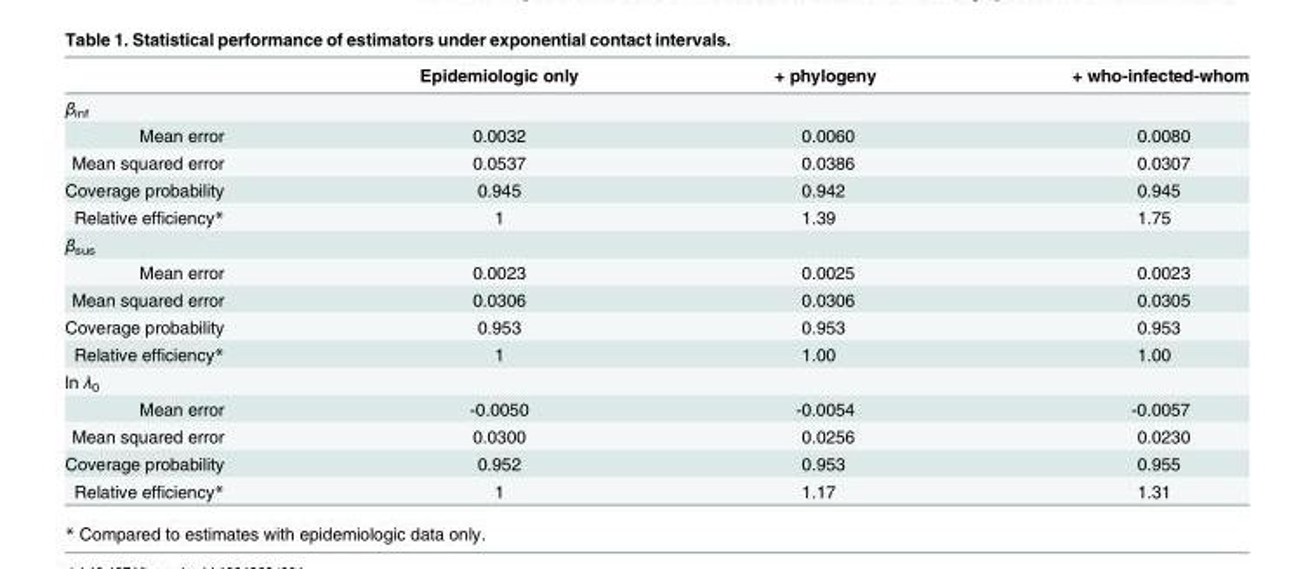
<table><thead><tr><td></td><td>Epidemiologic only</td><td>+ phylogeny</td><td>+ who-infected-whom</td></tr></thead><tbody><tr><td colspan="4">β<sub>inf</sub></td></tr><tr><td>Mean error</td><td>0.0032</td><td>0.0060</td><td>0.0080</td></tr><tr><td>Mean squared error</td><td>0.0537</td><td>0.0386</td><td>0.0307</td></tr><tr><td>Coverage probability</td><td>0.945</td><td>0.942</td><td>0.945</td></tr><tr><td>Relative efficiency*</td><td>1</td><td>1.39</td><td>1.75</td></tr><tr><td colspan="4">β<sub>sus</sub></td></tr><tr><td>Mean error</td><td>0.0023</td><td>0.0025</td><td>0.0023</td></tr><tr><td>Mean squared error</td><td>0.0306</td><td>0.0306</td><td>0.0305</td></tr><tr><td>Coverage probability</td><td>0.953</td><td>0.953</td><td>0.953</td></tr><tr><td>Relative efficiency*</td><td>1</td><td>1.00</td><td>1.00</td></tr><tr><td colspan="4">ln λ<sub>0</sub></td></tr><tr><td>Mean error</td><td>-0.0050</td><td>-0.0054</td><td>-0.0057</td></tr><tr><td>Mean squared error</td><td>0.0300</td><td>0.0256</td><td>0.0230</td></tr><tr><td>Coverage probability</td><td>0.952</td><td>0.953</td><td>0.955</td></tr><tr><td>Relative efficiency*</td><td>1</td><td>1.17</td><td>1.31</td></tr></tbody></table>